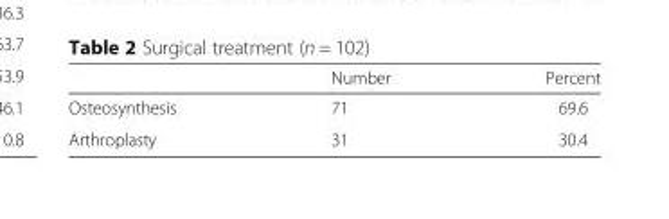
<table><thead><tr><td></td><td>Number</td><td>Percent</td></tr></thead><tbody><tr><td>Osteosynthesis</td><td>71</td><td>69.6</td></tr><tr><td>Arthroplasty</td><td>31</td><td>30.4</td></tr></tbody></table>